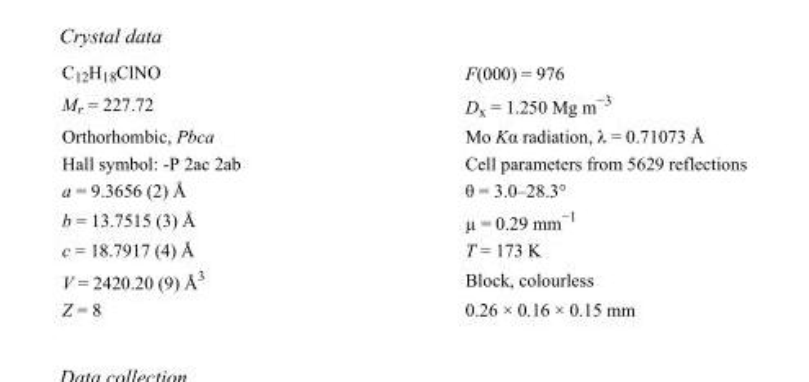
<table><tbody><tr><td>C<sub>12</sub>H<sub>18</sub>ClNO</td><td>F(000) = 976</td></tr><tr><td>M<sub>r</sub> = 227.72</td><td>D<sub>x</sub> = 1.250 Mg m<sup>−3</sup></td></tr><tr><td>Orthorhombic, Pbca</td><td>Mo Kα radiation, λ = 0.71073 Å</td></tr><tr><td>Hall symbol: -P 2ac 2ab</td><td>Cell parameters from 5629 reflections</td></tr><tr><td>a = 9.3656 (2) Å</td><td>θ = 3.0–28.3°</td></tr><tr><td>b = 13.7515 (3) Å</td><td>µ = 0.29 mm<sup>−1</sup></td></tr><tr><td>c = 18.7917 (4) Å</td><td>T = 173 K</td></tr><tr><td>V = 2420.20 (9) Å<sup>3</sup></td><td>Block, colourless</td></tr><tr><td>Z = 8</td><td>0.26 × 0.16 × 0.15 mm</td></tr></tbody></table>